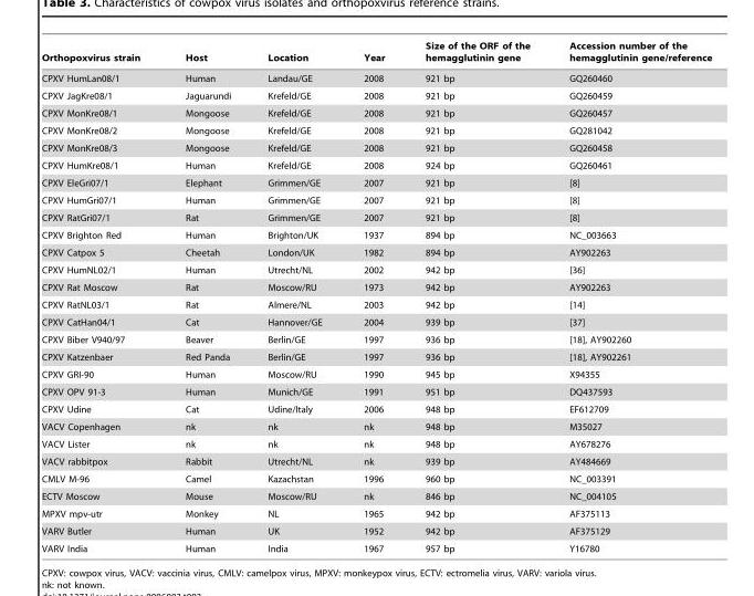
<table><thead><tr><td>Orthopoxvirus strain</td><td>Host</td><td>Location</td><td>Year</td><td>Size of the ORF of the hemagglutinin gene</td><td>Accession number of the hemagglutinin gene/reference</td></tr></thead><tbody><tr><td>CPXV HumLan08/1</td><td>Human</td><td>Landau/GE</td><td>2008</td><td>921 bp</td><td>GQ260460</td></tr><tr><td>CPXV JagKre08/1</td><td>Jaguarundi</td><td>Krefeld/GE</td><td>2008</td><td>921 bp</td><td>GQ260459</td></tr><tr><td>CPXV MonKre08/1</td><td>Mongoose</td><td>Krefeld/GE</td><td>2008</td><td>921 bp</td><td>GQ260457</td></tr><tr><td>CPXV MonKre08/2</td><td>Mongoose</td><td>Krefeld/GE</td><td>2008</td><td>921 bp</td><td>GQ281042</td></tr><tr><td>CPXV MonKre08/3</td><td>Mongoose</td><td>Krefeld/GE</td><td>2008</td><td>921 bp</td><td>GQ260458</td></tr><tr><td>CPXV HumKre08/1</td><td>Human</td><td>Krefeld/GE</td><td>2008</td><td>924 bp</td><td>GQ260461</td></tr><tr><td>CPXV EleGri07/1</td><td>Elephant</td><td>Grimmen/GE</td><td>2007</td><td>921 bp</td><td>[8]</td></tr><tr><td>CPXV HumGri07/1</td><td>Human</td><td>Grimmen/GE</td><td>2007</td><td>921 bp</td><td>[8]</td></tr><tr><td>CPXV RatGri07/1</td><td>Rat</td><td>Grimmen/GE</td><td>2007</td><td>921 bp</td><td>[8]</td></tr><tr><td>CPXV Brighton Red</td><td>Human</td><td>Brighton/UK</td><td>1937</td><td>894 bp</td><td>NC_003663</td></tr><tr><td>CPXV Catpox 5</td><td>Cheetah</td><td>London/UK</td><td>1982</td><td>894 bp</td><td>AY902263</td></tr><tr><td>CPXV HumNL02/1</td><td>Human</td><td>Utrecht/NL</td><td>2002</td><td>942 bp</td><td>[36]</td></tr><tr><td>CPXV Rat Moscow</td><td>Rat</td><td>Moscow/RU</td><td>1973</td><td>942 bp</td><td>AY902263</td></tr><tr><td>CPXV RatNL03/1</td><td>Rat</td><td>Almere/NL</td><td>2003</td><td>942 bp</td><td>[14]</td></tr><tr><td>CPXV CatHan04/1</td><td>Cat</td><td>Hannover/GE</td><td>2004</td><td>939 bp</td><td>[37]</td></tr><tr><td>CPXV Biber V940/97</td><td>Beaver</td><td>Berlin/GE</td><td>1997</td><td>936 bp</td><td>[18], AY902260</td></tr><tr><td>CPXV Katzenbaer</td><td>Red Panda</td><td>Berlin/GE</td><td>1997</td><td>936 bp</td><td>[18], AY902261</td></tr><tr><td>CPXV GRI-90</td><td>Human</td><td>Moscow/RU</td><td>1990</td><td>945 bp</td><td>X94355</td></tr><tr><td>CPXV OPV 91-3</td><td>Human</td><td>Munich/GE</td><td>1991</td><td>951 bp</td><td>DQ437593</td></tr><tr><td>CPXV Udine</td><td>Cat</td><td>Udine/Italy</td><td>2006</td><td>948 bp</td><td>EF612709</td></tr><tr><td>VACV Copenhagen</td><td>nk</td><td>nk</td><td>nk</td><td>948 bp</td><td>M35027</td></tr><tr><td>VACV Lister</td><td>nk</td><td>nk</td><td>nk</td><td>948 bp</td><td>AY678276</td></tr><tr><td>VACV rabbitpox</td><td>Rabbit</td><td>Utrecht/NL</td><td>nk</td><td>939 bp</td><td>AY484669</td></tr><tr><td>CMLV M-96</td><td>Camel</td><td>Kazachstan</td><td>1996</td><td>960 bp</td><td>NC_003391</td></tr><tr><td>ECTV Moscow</td><td>Mouse</td><td>Moscow/RU</td><td>nk</td><td>846 bp</td><td>NC_004105</td></tr><tr><td>MPXV mpv-utr</td><td>Monkey</td><td>NL</td><td>1965</td><td>942 bp</td><td>AF375113</td></tr><tr><td>VARV Butler</td><td>Human</td><td>UK</td><td>1952</td><td>942 bp</td><td>AF375129</td></tr><tr><td>VARV India</td><td>Human</td><td>India</td><td>1967</td><td>957 bp</td><td>Y16780</td></tr></tbody></table>